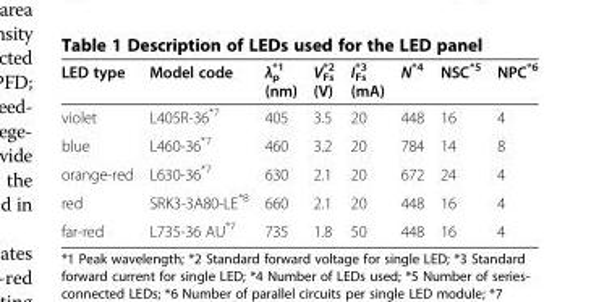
<table><thead><tr><td>LED type</td><td>Model code</td><td>λ<sub>p</sub> <sup>*1</sup> (nm)</td><td>V<sub>Fs</sub> <sup>*2</sup> (V)</td><td>I<sub>Fs</sub> <sup>*3</sup> (mA)</td><td>N<sup>*4</sup></td><td>NSC<sup>*5</sup></td><td>NPC<sup>*6</sup></td></tr></thead><tbody><tr><td>violet</td><td>L405R-36<sup>*7</sup></td><td>405</td><td>3.5</td><td>20</td><td>448</td><td>16</td><td>4</td></tr><tr><td>blue</td><td>L460-36<sup>*7</sup></td><td>460</td><td>3.2</td><td>20</td><td>784</td><td>14</td><td>8</td></tr><tr><td>orange-red</td><td>L630-36<sup>*7</sup></td><td>630</td><td>2.1</td><td>20</td><td>672</td><td>24</td><td>4</td></tr><tr><td>red</td><td>SRK3-3A80-LE<sup>*8</sup></td><td>660</td><td>2.1</td><td>20</td><td>448</td><td>16</td><td>4</td></tr><tr><td>far-red</td><td>L735-36 AU<sup>*7</sup></td><td>735</td><td>1.8</td><td>50</td><td>448</td><td>16</td><td>4</td></tr></tbody></table>